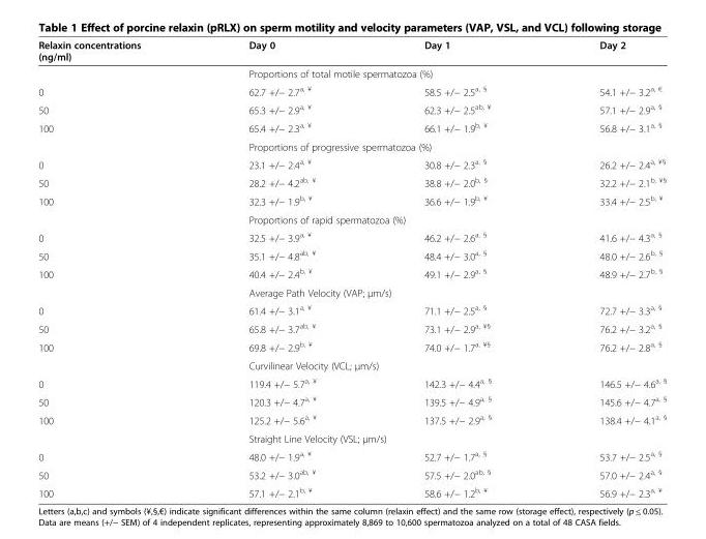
<table><thead><tr><td>Relaxin concentrations (ng/ml)</td><td>Day 0</td><td>Day 1</td><td>Day 2</td></tr></thead><tbody><tr><td></td><td colspan="3">Proportions of total motile spermatozoa (%)</td></tr><tr><td>0</td><td>62.7 +/− 2.7<sup>a, ¥</sup></td><td>58.5 +/− 2.5<sup>a, §</sup></td><td>54.1 +/− 3.2<sup>a, €</sup></td></tr><tr><td>50</td><td>65.3 +/− 2.9<sup>a, ¥</sup></td><td>62.3 +/− 2.5<sup>ab, ¥</sup></td><td>57.1 +/− 2.9<sup>a, §</sup></td></tr><tr><td rowspan="2">100</td><td>65.4 +/− 2.3<sup>a, ¥</sup></td><td>66.1 +/− 1.9<sup>b, ¥</sup></td><td>56.8 +/− 3.1<sup>a, §</sup></td></tr><tr><td colspan="3">Proportions of progressive spermatozoa (%)</td></tr><tr><td>0</td><td>23.1 +/− 2.4<sup>a, ¥</sup></td><td>30.8 +/− 2.3<sup>a, §</sup></td><td>26.2 +/− 2.4<sup>a, ¥§</sup></td></tr><tr><td>50</td><td>28.2 +/− 4.2<sup>ab, ¥</sup></td><td>38.8 +/− 2.0<sup>b, §</sup></td><td>32.2 +/− 2.1<sup>b, ¥§</sup></td></tr><tr><td rowspan="2">100</td><td>32.3 +/− 1.9<sup>b, ¥</sup></td><td>36.6 +/− 1.9<sup>b, ¥</sup></td><td>33.4 +/− 2.5<sup>b, ¥</sup></td></tr><tr><td colspan="3">Proportions of rapid spermatozoa (%)</td></tr><tr><td>0</td><td>32.5 +/− 3.9<sup>a, ¥</sup></td><td>46.2 +/− 2.6<sup>a, §</sup></td><td>41.6 +/− 4.3<sup>a, §</sup></td></tr><tr><td>50</td><td>35.1 +/− 4.8<sup>ab, ¥</sup></td><td>48.4 +/− 3.0<sup>a, §</sup></td><td>48.0 +/− 2.6<sup>b, §</sup></td></tr><tr><td rowspan="2">100</td><td>40.4 +/− 2.4<sup>b, ¥</sup></td><td>49.1 +/− 2.9<sup>a, §</sup></td><td>48.9 +/− 2.7<sup>b, §</sup></td></tr><tr><td colspan="3">Average Path Velocity (VAP; μm/s)</td></tr><tr><td>0</td><td>61.4 +/− 3.1<sup>a, ¥</sup></td><td>71.1 +/− 2.5<sup>a, §</sup></td><td>72.7 +/− 3.3<sup>a, §</sup></td></tr><tr><td>50</td><td>65.8 +/− 3.7<sup>ab, ¥</sup></td><td>73.1 +/− 2.9<sup>a, ¥§</sup></td><td>76.2 +/− 3.2<sup>a, §</sup></td></tr><tr><td rowspan="2">100</td><td>69.8 +/− 2.9<sup>b, ¥</sup></td><td>74.0 +/− 1.7<sup>a, ¥§</sup></td><td>76.2 +/− 2.8<sup>a, §</sup></td></tr><tr><td colspan="3">Curvilinear Velocity (VCL; μm/s)</td></tr><tr><td>0</td><td>119.4 +/− 5.7<sup>a, ¥</sup></td><td>142.3 +/− 4.4<sup>a, §</sup></td><td>146.5 +/− 4.6<sup>a, §</sup></td></tr><tr><td>50</td><td>120.3 +/− 4.7<sup>a, ¥</sup></td><td>139.5 +/− 4.9<sup>a, §</sup></td><td>145.6 +/− 4.7<sup>a, §</sup></td></tr><tr><td rowspan="2">100</td><td>125.2 +/− 5.6<sup>a, ¥</sup></td><td>137.5 +/− 2.9<sup>a, §</sup></td><td>138.4 +/− 4.1<sup>a, §</sup></td></tr><tr><td colspan="3">Straight Line Velocity (VSL; μm/s)</td></tr><tr><td>0</td><td>48.0 +/− 1.9<sup>a, ¥</sup></td><td>52.7 +/− 1.7<sup>a, §</sup></td><td>53.7 +/− 2.5<sup>a, §</sup></td></tr><tr><td>50</td><td>53.2 +/− 3.0<sup>ab, ¥</sup></td><td>57.5 +/− 2.0<sup>ab, §</sup></td><td>57.0 +/− 2.4<sup>a, §</sup></td></tr><tr><td>100</td><td>57.1 +/− 2.1<sup>b, ¥</sup></td><td>58.6 +/− 1.2<sup>b, ¥</sup></td><td>56.9 +/− 2.3<sup>a, ¥</sup></td></tr></tbody></table>